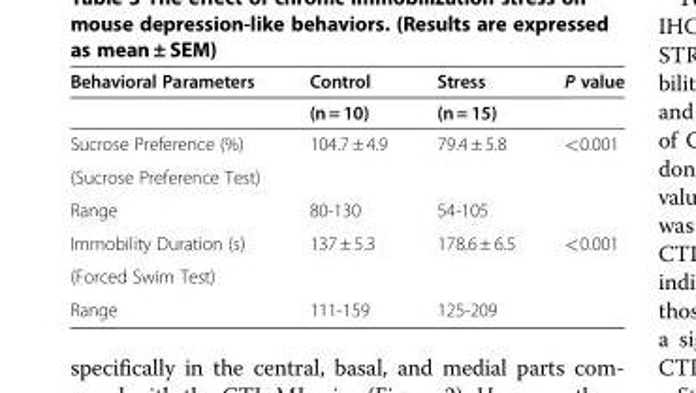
<table><thead><tr><td rowspan="2">Behavioral Parameters</td><td rowspan="2">Control (n = 10)</td><td rowspan="2">Stress (n = 15)</td><td rowspan="2">P value</td></tr><tr></tr></thead><tbody><tr><td>Sucrose Preference (%)</td><td rowspan="2">104.7 ± 4.9</td><td rowspan="2">79.4 ± 5.8</td><td rowspan="2">&lt;0.001</td></tr><tr><td>(Sucrose Preference Test)</td></tr><tr><td>Range</td><td>80-130</td><td>54-105</td><td></td></tr><tr><td>Immobility Duration (s)</td><td rowspan="2">137 ± 5.3</td><td rowspan="2">178.6 ± 6.5</td><td rowspan="2">&lt;0.001</td></tr><tr><td>(Forced Swim Test)</td></tr><tr><td>Range</td><td>111-159</td><td>125-209</td><td></td></tr></tbody></table>